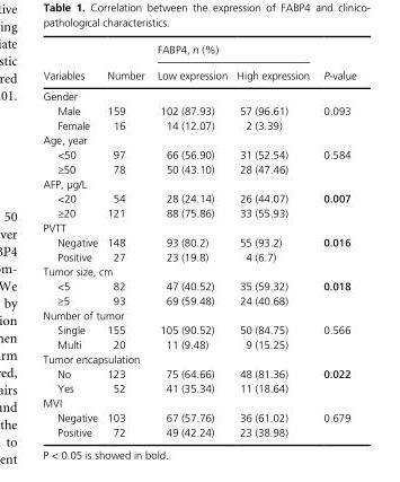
<table><thead><tr><td rowspan="2">Variables</td><td rowspan="2">Number</td><td colspan="2">FABP4, n (%)</td><td rowspan="2">P- value</td></tr><tr><td>Low expression</td><td>High expression</td></tr></thead><tbody><tr><td colspan="5">Gender</td></tr><tr><td>Male</td><td>159</td><td>102 (87.93)</td><td>57 (96.61)</td><td rowspan="2">0.093</td></tr><tr><td>Female</td><td>16</td><td>14 (12.07)</td><td>2 (3.39)</td></tr><tr><td colspan="5">Age, year</td></tr><tr><td>&lt;50</td><td>97</td><td>66 (56.90)</td><td>31 (52.54)</td><td rowspan="2">0.584</td></tr><tr><td>≥50</td><td>78</td><td>50 (43.10)</td><td>28 (47.46)</td></tr><tr><td colspan="5">AFP, μg/L</td></tr><tr><td>&lt;20</td><td>54</td><td>28 (24.14)</td><td>26 (44.07)</td><td rowspan="2">0.007</td></tr><tr><td>≥20</td><td>121</td><td>88 (75.86)</td><td>33 (55.93)</td></tr><tr><td colspan="5">PVTT</td></tr><tr><td>Negative</td><td>148</td><td>93 (80.2)</td><td>55 (93.2)</td><td rowspan="2">0.016</td></tr><tr><td>Positive</td><td>27</td><td>23 (19.8)</td><td>4 (6.7)</td></tr><tr><td colspan="5">Tumor size, cm</td></tr><tr><td>&lt;5</td><td>82</td><td>47 (40.52)</td><td>35 (59.32)</td><td rowspan="2">0.018</td></tr><tr><td>≥5</td><td>93</td><td>69 (59.48)</td><td>24 (40.68)</td></tr><tr><td colspan="5">Number of tumor</td></tr><tr><td>Single</td><td>155</td><td>105 (90.52)</td><td>50 (84.75)</td><td rowspan="2">0.566</td></tr><tr><td>Multi</td><td>20</td><td>11 (9.48)</td><td>9 (15.25)</td></tr><tr><td colspan="5">Tumor encapsulation</td></tr><tr><td>No</td><td>123</td><td>75 (64.66)</td><td>48 (81.36)</td><td rowspan="2">0.022</td></tr><tr><td>Yes</td><td>52</td><td>41 (35.34)</td><td>11 (18.64)</td></tr><tr><td colspan="5">MVI</td></tr><tr><td>Negative</td><td>103</td><td>67 (57.76)</td><td>36 (61.02)</td><td rowspan="2">0.679</td></tr><tr><td>Positive</td><td>72</td><td>49 (42.24)</td><td>23 (38.98)</td></tr></tbody></table>